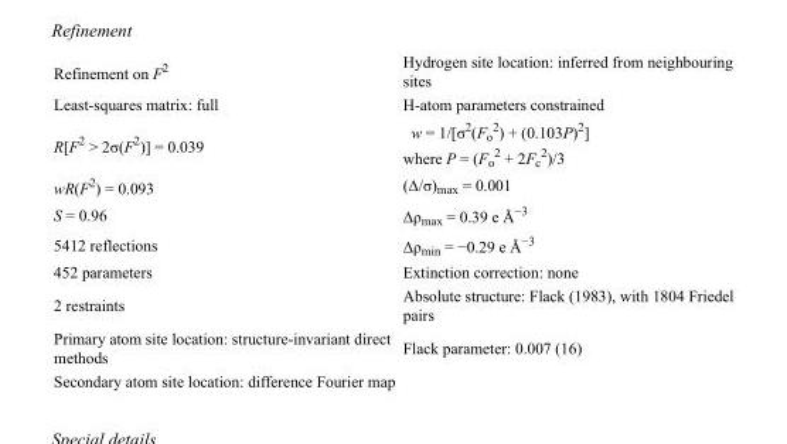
<table><tbody><tr><td>Refinement on F<sup>2</sup></td><td>Hydrogen site location: inferred from neighbouring sites</td></tr><tr><td>Least-squares matrix: full</td><td>H-atom parameters constrained</td></tr><tr><td>R[F<sup>2</sup> &gt; 2σ(F<sup>2</sup>)] = 0.039</td><td>w = 1/[σ<sup>2</sup>(F<sub>o</sub> <sup>2</sup>) + (0.103P)<sup>2</sup>] where P = (F<sub>o</sub> <sup>2</sup> + 2F<sub>c</sub> <sup>2</sup>)/3</td></tr><tr><td>wR(F<sup>2</sup>) = 0.093</td><td>(Δ/σ)<sub>max</sub> = 0.001</td></tr><tr><td>S = 0.96</td><td>Δρ<sub>max</sub> = 0.39 e Å<sup>−3</sup></td></tr><tr><td>5412 reflections</td><td>Δρ<sub>min</sub> = −0.29 e Å<sup>−3</sup></td></tr><tr><td>452 parameters</td><td>Extinction correction: none</td></tr><tr><td>2 restraints</td><td>Absolute structure: Flack (1983), with 1804 Friedel pairs</td></tr><tr><td>Primary atom site location: structure-invariant direct methods</td><td>Flack parameter: 0.007 (16)</td></tr><tr><td>Secondary atom site location: difference Fourier map</td><td></td></tr></tbody></table>